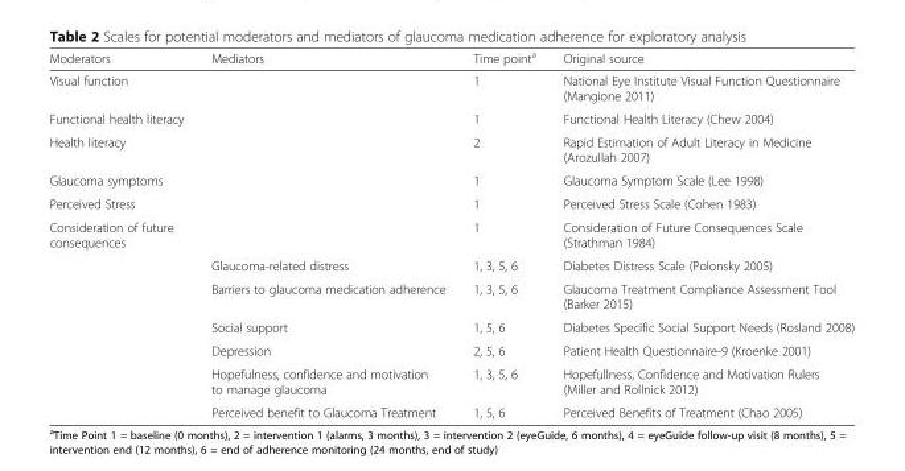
<table><thead><tr><td>Moderators</td><td>Mediators</td><td>Time point<sup>a</sup></td><td>Original source</td></tr></thead><tbody><tr><td>Visual function</td><td></td><td>1</td><td>National Eye Institute Visual Function Questionnaire (Mangione 2011)</td></tr><tr><td>Functional health literacy</td><td></td><td>1</td><td>Functional Health Literacy (Chew 2004)</td></tr><tr><td>Health literacy</td><td></td><td>2</td><td>Rapid Estimation of Adult Literacy in Medicine (Arozullah 2007)</td></tr><tr><td>Glaucoma symptoms</td><td></td><td>1</td><td>Glaucoma Symptom Scale (Lee 1998)</td></tr><tr><td>Perceived Stress</td><td></td><td>1</td><td>Perceived Stress Scale (Cohen 1983)</td></tr><tr><td rowspan="7">Consideration of future consequences</td><td></td><td>1</td><td>Consideration of Future Consequences Scale (Strathman 1984)</td></tr><tr><td>Glaucoma-related distress</td><td>1, 3, 5, 6</td><td>Diabetes Distress Scale (Polonsky 2005)</td></tr><tr><td>Barriers to glaucoma medication adherence</td><td>1, 3, 5, 6</td><td>Glaucoma Treatment Compliance Assessment Tool (Barker 2015)</td></tr><tr><td>Social support</td><td>1, 5, 6</td><td>Diabetes Specific Social Support Needs (Rosland 2008)</td></tr><tr><td>Depression</td><td>2, 5, 6</td><td>Patient Health Questionnaire-9 (Kroenke 2001)</td></tr><tr><td>Hopefulness, confidence and motivation to manage glaucoma</td><td>1, 3, 5, 6</td><td>Hopefullness, Confidence and Motivation Rulers (Miller and Rollnick 2012)</td></tr><tr><td>Perceived benefit to Glaucoma Treatment</td><td>1, 5, 6</td><td>Perceived Benefits of Treatment (Chao 2005)</td></tr></tbody></table>